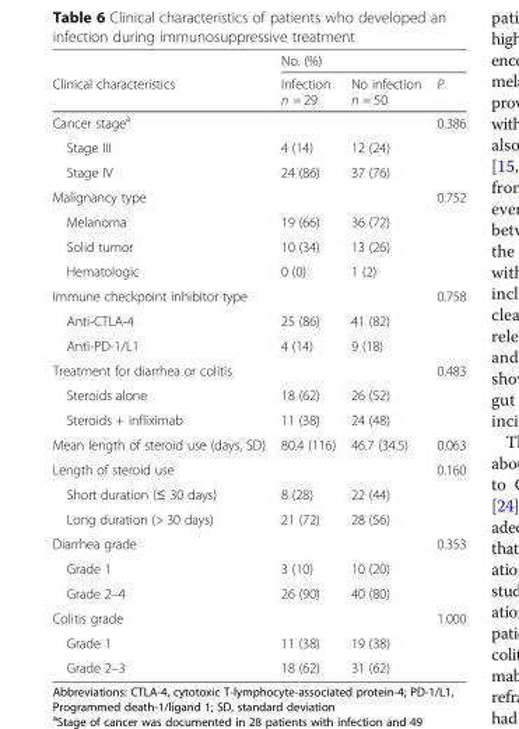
<table><thead><tr><td rowspan="2">Clinical characteristics</td><td colspan="3">No. (%)</td></tr><tr><td>Infection n = 29</td><td>No infection n = 50</td><td>P</td></tr></thead><tbody><tr><td>Cancer stage<sup>a</sup></td><td></td><td></td><td>0.386</td></tr><tr><td>Stage III</td><td>4 (14)</td><td>12 (24)</td><td></td></tr><tr><td>Stage IV</td><td>24 (86)</td><td>37 (76)</td><td></td></tr><tr><td>Malignancy type</td><td></td><td></td><td>0.752</td></tr><tr><td>Melanoma</td><td>19 (66)</td><td>36 (72)</td><td></td></tr><tr><td>Solid tumor</td><td>10 (34)</td><td>13 (26)</td><td></td></tr><tr><td>Hematologic</td><td>0 (0)</td><td>1 (2)</td><td></td></tr><tr><td>Immune checkpoint inhibitor type</td><td></td><td></td><td>0.758</td></tr><tr><td>Anti-CTLA-4</td><td>25 (86)</td><td>41 (82)</td><td></td></tr><tr><td>Anti-PD-1/L1</td><td>4 (14)</td><td>9 (18)</td><td></td></tr><tr><td>Treatment for diarrhea or colitis</td><td></td><td></td><td>0.483</td></tr><tr><td>Steroids alone</td><td>18 (62)</td><td>26 (52)</td><td></td></tr><tr><td>Steroids + infliximab</td><td>11 (38)</td><td>24 (48)</td><td></td></tr><tr><td>Mean length of steroid use (days, SD)</td><td>80.4 (116)</td><td>46.7 (34.5)</td><td>0.063</td></tr><tr><td>Length of steroid use</td><td></td><td></td><td>0.160</td></tr><tr><td>Short duration (≤ 30 days)</td><td>8 (28)</td><td>22 (44)</td><td></td></tr><tr><td>Long duration (&gt; 30 days)</td><td>21 (72)</td><td>28 (56)</td><td></td></tr><tr><td>Diarrhea grade</td><td></td><td></td><td>0.353</td></tr><tr><td>Grade 1</td><td>3 (10)</td><td>10 (20)</td><td></td></tr><tr><td>Grade 2–4</td><td>26 (90)</td><td>40 (80)</td><td></td></tr><tr><td>Colitis grade</td><td></td><td></td><td>1.000</td></tr><tr><td>Grade 1</td><td>11 (38)</td><td>19 (38)</td><td></td></tr><tr><td>Grade 2–3</td><td>18 (62)</td><td>31 (62)</td><td></td></tr></tbody></table>